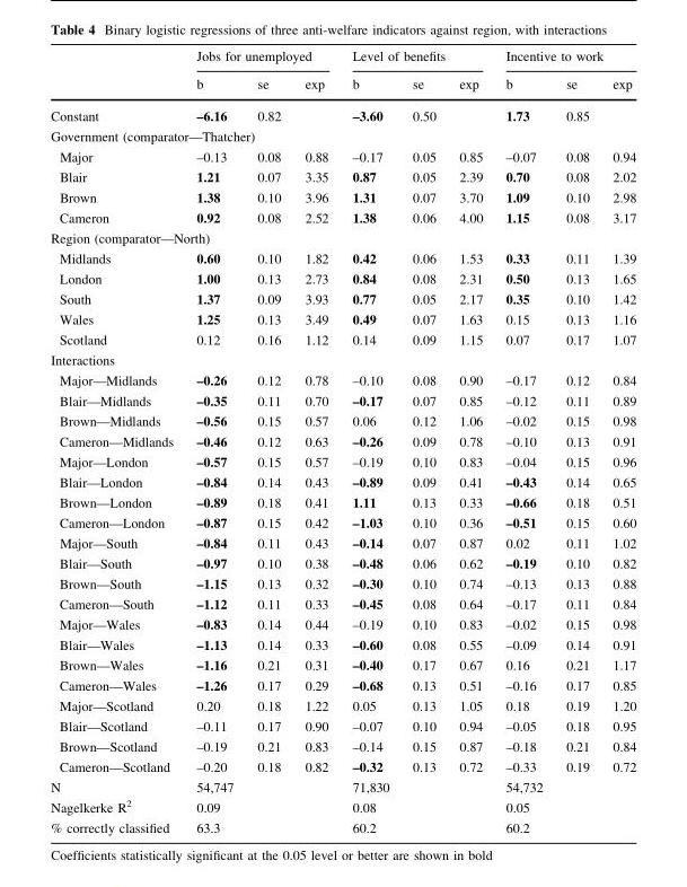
<table><thead><tr><td rowspan="2"></td><td colspan="3">Jobs for unemployed</td><td colspan="3">Level of benefits</td><td colspan="3">Incentive to work</td></tr><tr><td>b</td><td>se</td><td>exp</td><td>b</td><td>se</td><td>exp</td><td>b</td><td>se</td><td>exp</td></tr></thead><tbody><tr><td>Constant</td><td>–6.16</td><td>0.82</td><td></td><td>–3.60</td><td>0.50</td><td></td><td>1.73</td><td>0.85</td><td></td></tr><tr><td colspan="10">Government (comparator—Thatcher)</td></tr><tr><td>Major</td><td>–0.13</td><td>0.08</td><td>0.88</td><td>–0.17</td><td>0.05</td><td>0.85</td><td>–0.07</td><td>0.08</td><td>0.94</td></tr><tr><td>Blair</td><td>1.21</td><td>0.07</td><td>3.35</td><td>0.87</td><td>0.05</td><td>2.39</td><td>0.70</td><td>0.08</td><td>2.02</td></tr><tr><td>Brown</td><td>1.38</td><td>0.10</td><td>3.96</td><td>1.31</td><td>0.07</td><td>3.70</td><td>1.09</td><td>0.10</td><td>2.98</td></tr><tr><td>Cameron</td><td>0.92</td><td>0.08</td><td>2.52</td><td>1.38</td><td>0.06</td><td>4.00</td><td>1.15</td><td>0.08</td><td>3.17</td></tr><tr><td colspan="10">Region (comparator—North)</td></tr><tr><td>Midlands</td><td>0.60</td><td>0.10</td><td>1.82</td><td>0.42</td><td>0.06</td><td>1.53</td><td>0.33</td><td>0.11</td><td>1.39</td></tr><tr><td>London</td><td>1.00</td><td>0.13</td><td>2.73</td><td>0.84</td><td>0.08</td><td>2.31</td><td>0.50</td><td>0.13</td><td>1.65</td></tr><tr><td>South</td><td>1.37</td><td>0.09</td><td>3.93</td><td>0.77</td><td>0.05</td><td>2.17</td><td>0.35</td><td>0.10</td><td>1.42</td></tr><tr><td>Wales</td><td>1.25</td><td>0.13</td><td>3.49</td><td>0.49</td><td>0.07</td><td>1.63</td><td>0.15</td><td>0.13</td><td>1.16</td></tr><tr><td>Scotland</td><td>0.12</td><td>0.16</td><td>1.12</td><td>0.14</td><td>0.09</td><td>1.15</td><td>0.07</td><td>0.17</td><td>1.07</td></tr><tr><td colspan="10">Interactions</td></tr><tr><td>Major—Midlands</td><td>–0.26</td><td>0.12</td><td>0.78</td><td>–0.10</td><td>0.08</td><td>0.90</td><td>–0.17</td><td>0.12</td><td>0.84</td></tr><tr><td>Blair—Midlands</td><td>–0.35</td><td>0.11</td><td>0.70</td><td>–0.17</td><td>0.07</td><td>0.85</td><td>–0.12</td><td>0.11</td><td>0.89</td></tr><tr><td>Brown—Midlands</td><td>–0.56</td><td>0.15</td><td>0.57</td><td>0.06</td><td>0.12</td><td>1.06</td><td>–0.02</td><td>0.15</td><td>0.98</td></tr><tr><td>Cameron—Midlands</td><td>–0.46</td><td>0.12</td><td>0.63</td><td>–0.26</td><td>0.09</td><td>0.78</td><td>–0.10</td><td>0.13</td><td>0.91</td></tr><tr><td>Major—London</td><td>–0.57</td><td>0.15</td><td>0.57</td><td>–0.19</td><td>0.10</td><td>0.83</td><td>–0.04</td><td>0.15</td><td>0.96</td></tr><tr><td>Blair—London</td><td>–0.84</td><td>0.14</td><td>0.43</td><td>–0.89</td><td>0.09</td><td>0.41</td><td>–0.43</td><td>0.14</td><td>0.65</td></tr><tr><td>Brown—London</td><td>–0.89</td><td>0.18</td><td>0.41</td><td>1.11</td><td>0.13</td><td>0.33</td><td>–0.66</td><td>0.18</td><td>0.51</td></tr><tr><td>Cameron—London</td><td>–0.87</td><td>0.15</td><td>0.42</td><td>–1.03</td><td>0.10</td><td>0.36</td><td>–0.51</td><td>0.15</td><td>0.60</td></tr><tr><td>Major—South</td><td>–0.84</td><td>0.11</td><td>0.43</td><td>–0.14</td><td>0.07</td><td>0.87</td><td>0.02</td><td>0.11</td><td>1.02</td></tr><tr><td>Blair—South</td><td>–0.97</td><td>0.10</td><td>0.38</td><td>–0.48</td><td>0.06</td><td>0.62</td><td>–0.19</td><td>0.10</td><td>0.82</td></tr><tr><td>Brown—South</td><td>–1.15</td><td>0.13</td><td>0.32</td><td>–0.30</td><td>0.10</td><td>0.74</td><td>–0.13</td><td>0.13</td><td>0.88</td></tr><tr><td>Cameron—South</td><td>–1.12</td><td>0.11</td><td>0.33</td><td>–0.45</td><td>0.08</td><td>0.64</td><td>–0.17</td><td>0.11</td><td>0.84</td></tr><tr><td>Major—Wales</td><td>–0.83</td><td>0.14</td><td>0.44</td><td>–0.19</td><td>0.10</td><td>0.83</td><td>–0.02</td><td>0.15</td><td>0.98</td></tr><tr><td>Blair—Wales</td><td>–1.13</td><td>0.14</td><td>0.33</td><td>–0.60</td><td>0.08</td><td>0.55</td><td>–0.09</td><td>0.14</td><td>0.91</td></tr><tr><td>Brown—Wales</td><td>–1.16</td><td>0.21</td><td>0.31</td><td>–0.40</td><td>0.17</td><td>0.67</td><td>0.16</td><td>0.21</td><td>1.17</td></tr><tr><td>Cameron—Wales</td><td>–1.26</td><td>0.17</td><td>0.29</td><td>–0.68</td><td>0.13</td><td>0.51</td><td>–0.16</td><td>0.17</td><td>0.85</td></tr><tr><td>Major—Scotland</td><td>0.20</td><td>0.18</td><td>1.22</td><td>0.05</td><td>0.13</td><td>1.05</td><td>0.18</td><td>0.19</td><td>1.20</td></tr><tr><td>Blair—Scotland</td><td>–0.11</td><td>0.17</td><td>0.90</td><td>–0.07</td><td>0.10</td><td>0.94</td><td>–0.05</td><td>0.18</td><td>0.95</td></tr><tr><td>Brown—Scotland</td><td>–0.19</td><td>0.21</td><td>0.83</td><td>–0.14</td><td>0.15</td><td>0.87</td><td>–0.18</td><td>0.21</td><td>0.84</td></tr><tr><td>Cameron—Scotland</td><td>–0.20</td><td>0.18</td><td>0.82</td><td>–0.32</td><td>0.13</td><td>0.72</td><td>–0.33</td><td>0.19</td><td>0.72</td></tr><tr><td>N</td><td>54,747</td><td></td><td></td><td>71,830</td><td></td><td></td><td>54,732</td><td></td><td></td></tr><tr><td>Nagelkerke R<sup>2</sup></td><td>0.09</td><td></td><td></td><td>0.08</td><td></td><td></td><td>0.05</td><td></td><td></td></tr><tr><td>% correctly classified</td><td>63.3</td><td></td><td></td><td>60.2</td><td></td><td></td><td>60.2</td><td></td><td></td></tr></tbody></table>